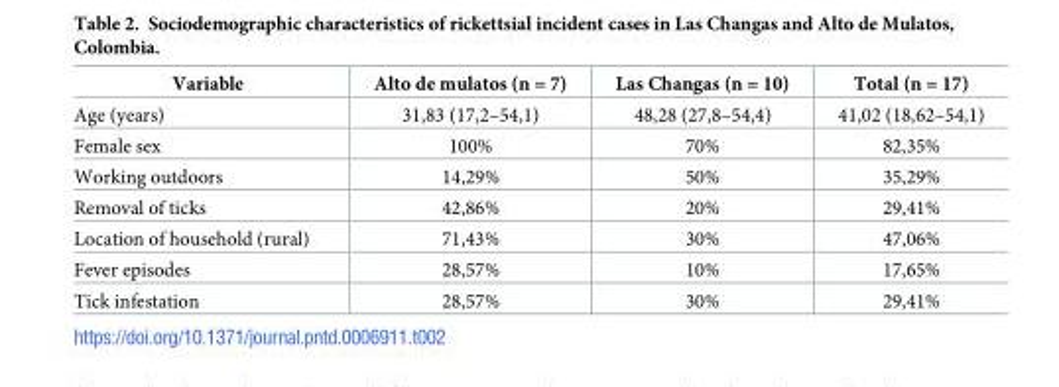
<table><thead><tr><td>Variable</td><td>Alto de mulatos (n = 7)</td><td>Las Changas (n = 10)</td><td>Total (n = 17)</td></tr></thead><tbody><tr><td>Age (years)</td><td>31,83 (17,2–54,1)</td><td>48,28 (27,8–54,4)</td><td>41,02 (18,62–54,1)</td></tr><tr><td>Female sex</td><td>100%</td><td>70%</td><td>82,35%</td></tr><tr><td>Working outdoors</td><td>14,29%</td><td>50%</td><td>35,29%</td></tr><tr><td>Removal of ticks</td><td>42,86%</td><td>20%</td><td>29,41%</td></tr><tr><td>Location of household (rural)</td><td>71,43%</td><td>30%</td><td>47,06%</td></tr><tr><td>Fever episodes</td><td>28,57%</td><td>10%</td><td>17,65%</td></tr><tr><td>Tick infestation</td><td>28,57%</td><td>30%</td><td>29,41%</td></tr></tbody></table>